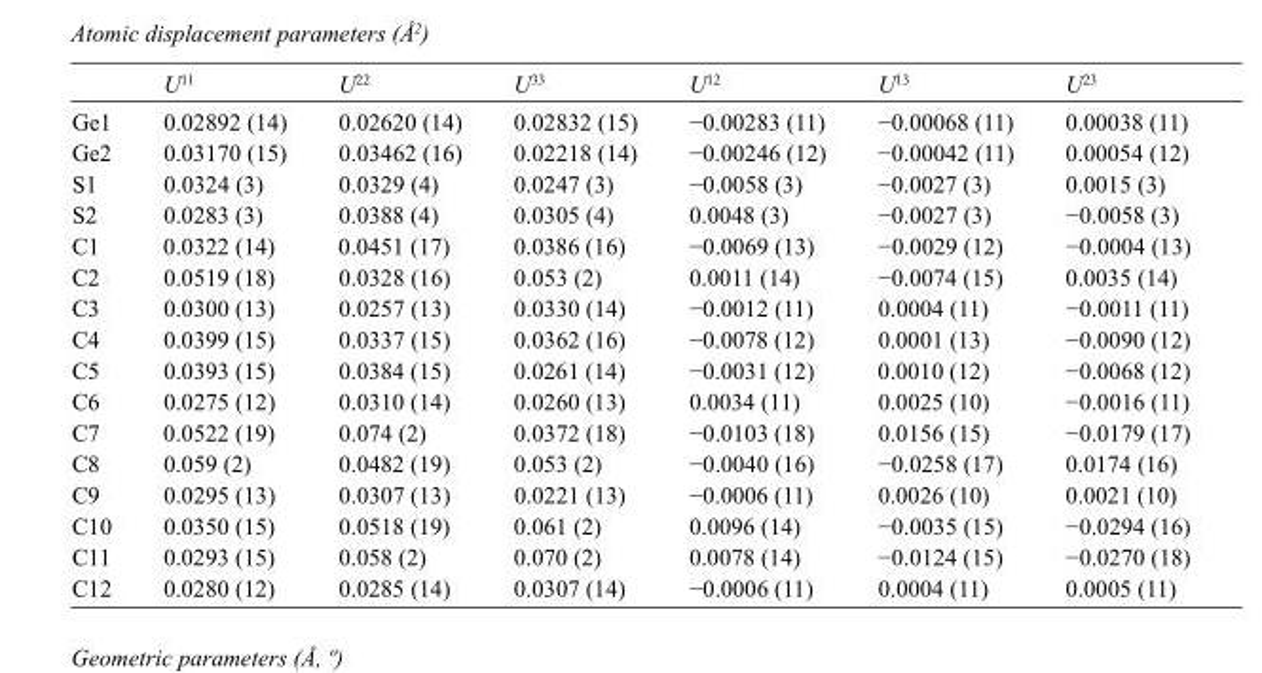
<table><thead><tr><td></td><td>U<sup>11</sup></td><td>U<sup>22</sup></td><td>U<sup>33</sup></td><td>U<sup>12</sup></td><td>U<sup>13</sup></td><td>U<sup>23</sup></td></tr></thead><tbody><tr><td>Ge1</td><td>0.02892 (14)</td><td>0.02620 (14)</td><td>0.02832 (15)</td><td>−0.00283 (11)</td><td>−0.00068 (11)</td><td>0.00038 (11)</td></tr><tr><td>Ge2</td><td>0.03170 (15)</td><td>0.03462 (16)</td><td>0.02218 (14)</td><td>−0.00246 (12)</td><td>−0.00042 (11)</td><td>0.00054 (12)</td></tr><tr><td>S1</td><td>0.0324 (3)</td><td>0.0329 (4)</td><td>0.0247 (3)</td><td>−0.0058 (3)</td><td>−0.0027 (3)</td><td>0.0015 (3)</td></tr><tr><td>S2</td><td>0.0283 (3)</td><td>0.0388 (4)</td><td>0.0305 (4)</td><td>0.0048 (3)</td><td>−0.0027 (3)</td><td>−0.0058 (3)</td></tr><tr><td>C1</td><td>0.0322 (14)</td><td>0.0451 (17)</td><td>0.0386 (16)</td><td>−0.0069 (13)</td><td>−0.0029 (12)</td><td>−0.0004 (13)</td></tr><tr><td>C2</td><td>0.0519 (18)</td><td>0.0328 (16)</td><td>0.053 (2)</td><td>0.0011 (14)</td><td>−0.0074 (15)</td><td>0.0035 (14)</td></tr><tr><td>C3</td><td>0.0300 (13)</td><td>0.0257 (13)</td><td>0.0330 (14)</td><td>−0.0012 (11)</td><td>0.0004 (11)</td><td>−0.0011 (11)</td></tr><tr><td>C4</td><td>0.0399 (15)</td><td>0.0337 (15)</td><td>0.0362 (16)</td><td>−0.0078 (12)</td><td>0.0001 (13)</td><td>−0.0090 (12)</td></tr><tr><td>C5</td><td>0.0393 (15)</td><td>0.0384 (15)</td><td>0.0261 (14)</td><td>−0.0031 (12)</td><td>0.0010 (12)</td><td>−0.0068 (12)</td></tr><tr><td>C6</td><td>0.0275 (12)</td><td>0.0310 (14)</td><td>0.0260 (13)</td><td>0.0034 (11)</td><td>0.0025 (10)</td><td>−0.0016 (11)</td></tr><tr><td>C7</td><td>0.0522 (19)</td><td>0.074 (2)</td><td>0.0372 (18)</td><td>−0.0103 (18)</td><td>0.0156 (15)</td><td>−0.0179 (17)</td></tr><tr><td>C8</td><td>0.059 (2)</td><td>0.0482 (19)</td><td>0.053 (2)</td><td>−0.0040 (16)</td><td>−0.0258 (17)</td><td>0.0174 (16)</td></tr><tr><td>C9</td><td>0.0295 (13)</td><td>0.0307 (13)</td><td>0.0221 (13)</td><td>−0.0006 (11)</td><td>0.0026 (10)</td><td>0.0021 (10)</td></tr><tr><td>C10</td><td>0.0350 (15)</td><td>0.0518 (19)</td><td>0.061 (2)</td><td>0.0096 (14)</td><td>−0.0035 (15)</td><td>−0.0294 (16)</td></tr><tr><td>C11</td><td>0.0293 (15)</td><td>0.058 (2)</td><td>0.070 (2)</td><td>0.0078 (14)</td><td>−0.0124 (15)</td><td>−0.0270 (18)</td></tr><tr><td>C12</td><td>0.0280 (12)</td><td>0.0285 (14)</td><td>0.0307 (14)</td><td>−0.0006 (11)</td><td>0.0004 (11)</td><td>0.0005 (11)</td></tr></tbody></table>